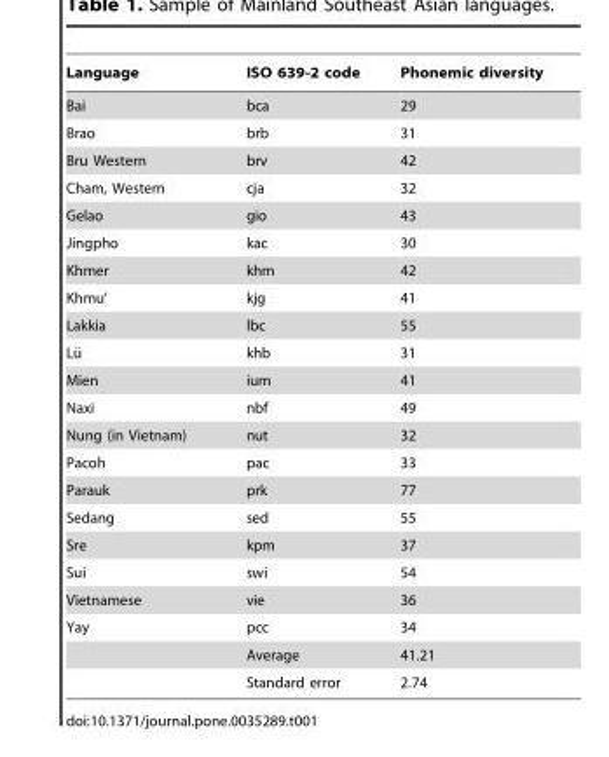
<table><thead><tr><td>Language</td><td>ISO 639-2 code</td><td>Phonemic diversity</td></tr></thead><tbody><tr><td>Bai</td><td>bca</td><td>29</td></tr><tr><td>Brao</td><td>brb</td><td>31</td></tr><tr><td>Bru Western</td><td>brv</td><td>42</td></tr><tr><td>Cham, Western</td><td>cja</td><td>32</td></tr><tr><td>Gelao</td><td>gio</td><td>43</td></tr><tr><td>Jingpho</td><td>kac</td><td>30</td></tr><tr><td>Khmer</td><td>khm</td><td>42</td></tr><tr><td>Khmu’</td><td>kjg</td><td>41</td></tr><tr><td>Lakkia</td><td>lbc</td><td>55</td></tr><tr><td>Lu¨</td><td>khb</td><td>31</td></tr><tr><td>Mien</td><td>ium</td><td>41</td></tr><tr><td>Naxi</td><td>nbf</td><td>49</td></tr><tr><td>Nung (in Vietnam)</td><td>nut</td><td>32</td></tr><tr><td>Pacoh</td><td>pac</td><td>33</td></tr><tr><td>Parauk</td><td>prk</td><td>77</td></tr><tr><td>Sedang</td><td>sed</td><td>55</td></tr><tr><td>Sre</td><td>kpm</td><td>37</td></tr><tr><td>Sui</td><td>swi</td><td>54</td></tr><tr><td>Vietnamese</td><td>vie</td><td>36</td></tr><tr><td rowspan="3">Yay</td><td>pcc</td><td>34</td></tr><tr><td>Average</td><td>41.21</td></tr><tr><td>Standard error</td><td>2.74</td></tr></tbody></table>